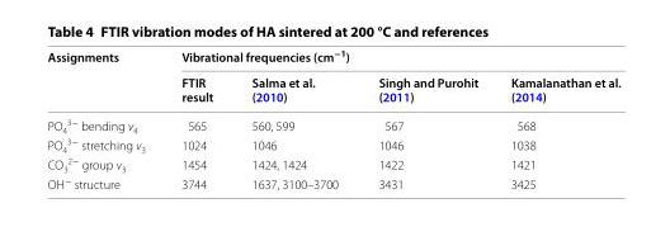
<table><thead><tr><td rowspan="2">Assignments</td><td colspan="4">Vibrational frequencies (cm<sup>−1</sup>)</td></tr><tr><td>FTIR result</td><td>Salma et al. (2010)</td><td>Singh and Purohit (2011)</td><td>Kamalanathan et al. (2014)</td></tr></thead><tbody><tr><td>PO<sub>4</sub> <sup>3−</sup> bending v<sub>4</sub></td><td>565</td><td>560, 599</td><td>567</td><td>568</td></tr><tr><td>PO<sub>4</sub> <sup>3−</sup> stretching v<sub>3</sub></td><td>1024</td><td>1046</td><td>1046</td><td>1038</td></tr><tr><td>CO<sub>3</sub> <sup>2−</sup> group v<sub>3</sub></td><td>1454</td><td>1424, 1424</td><td>1422</td><td>1421</td></tr><tr><td>OH<sup>−</sup> structure</td><td>3744</td><td>1637, 3100–3700</td><td>3431</td><td>3425</td></tr></tbody></table>